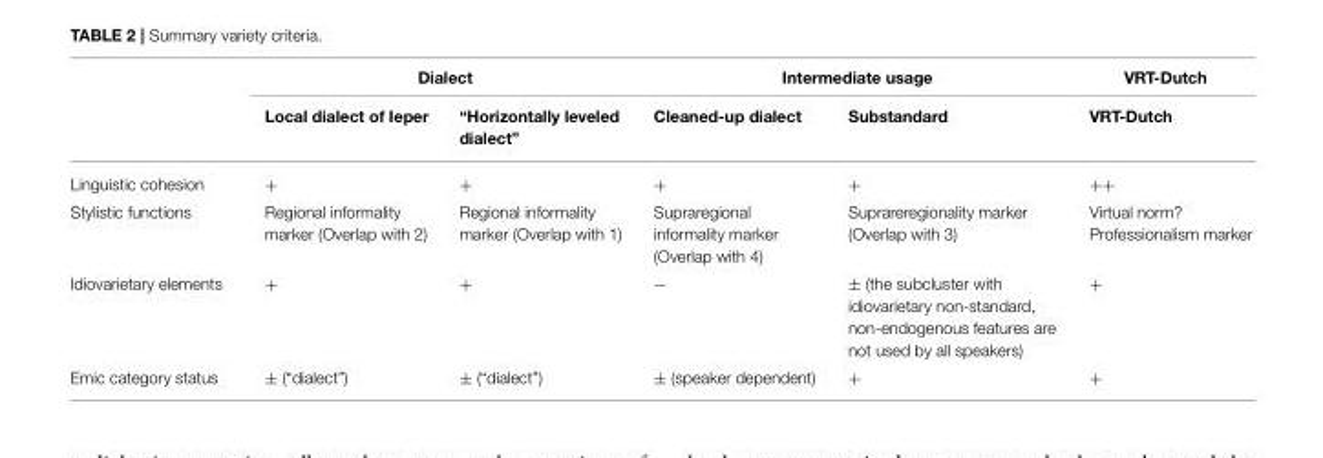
<table><thead><tr><td rowspan="2"></td><td colspan="2">Dialect</td><td colspan="2">Intermediate usage</td><td rowspan="2">VRT-Dutch VRT-Dutch</td></tr><tr><td>Local dialect of Ieper</td><td>“Horizontally leveled dialect”</td><td>Cleaned-up dialect</td><td>Substandard</td></tr></thead><tbody><tr><td>Linguistic cohesion</td><td>+</td><td>+</td><td>+</td><td>+</td><td>++</td></tr><tr><td>Stylistic functions</td><td>Regional informality marker (Overlap with 2)</td><td>Regional informality marker (Overlap with 1)</td><td>Supraregional informality marker (Overlap with 4)</td><td>Suprareregionality marker (Overlap with 3)</td><td>Virtual norm? Professionalism marker</td></tr><tr><td>Idiovarietary elements</td><td>+</td><td>+</td><td>−</td><td>± (the subcluster with idiovarietary non-standard, non-endogenous features are not used by all speakers)</td><td>+</td></tr><tr><td>Emic category status</td><td>± (“dialect”)</td><td>± (“dialect”)</td><td>± (speaker dependent)</td><td>+</td><td>+</td></tr></tbody></table>